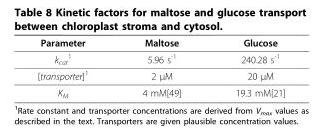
<table><thead><tr><td>Parameter</td><td>Maltose</td><td>Glucose</td></tr></thead><tbody><tr><td>k<sub>cat</sub> <sup>1</sup></td><td>5.96 s<sup>-1</sup></td><td>240.28 s<sup>-1</sup></td></tr><tr><td>[transporter]<sup>1</sup></td><td>2 μM</td><td>20 μM</td></tr><tr><td>K<sub>M</sub></td><td>4 mM[49]</td><td>19.3 mM[21]</td></tr></tbody></table>